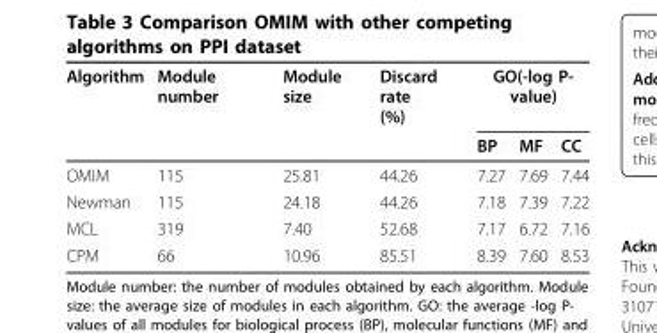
<table><thead><tr><td rowspan="2">Algorithm</td><td rowspan="2">Module number</td><td rowspan="2">Module size</td><td rowspan="2">Discard rate (%)</td><td colspan="3">GO(-log P- value)</td></tr><tr><td>BP</td><td>MF</td><td>CC</td></tr></thead><tbody><tr><td>OMIM</td><td>115</td><td>25.81</td><td>44.26</td><td>7.27</td><td>7.69</td><td>7.44</td></tr><tr><td>Newman</td><td>115</td><td>24.18</td><td>44.26</td><td>7.18</td><td>7.39</td><td>7.22</td></tr><tr><td>MCL</td><td>319</td><td>7.40</td><td>52.68</td><td>7.17</td><td>6.72</td><td>7.16</td></tr><tr><td>CPM</td><td>66</td><td>10.96</td><td>85.51</td><td>8.39</td><td>7.60</td><td>8.53</td></tr></tbody></table>